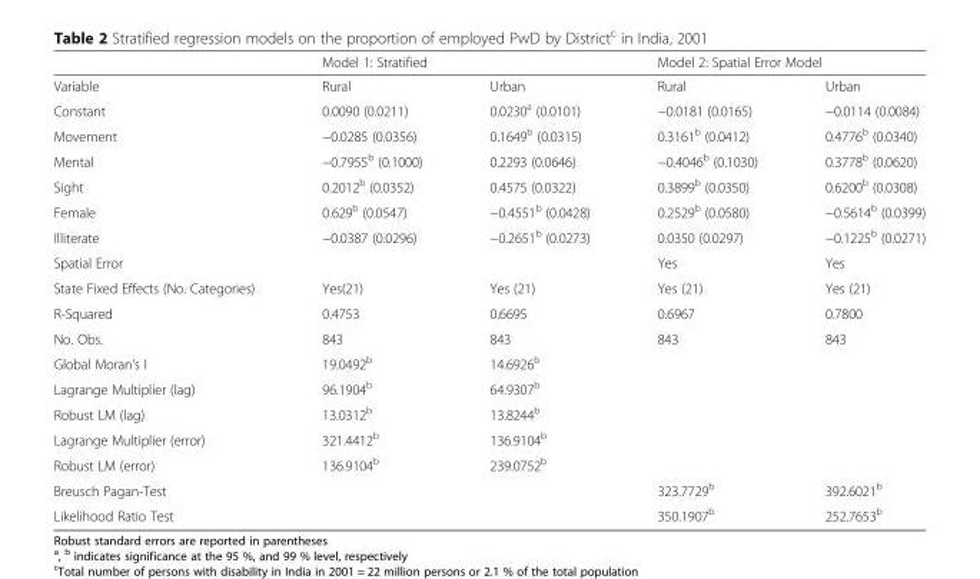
<table><thead><tr><td rowspan="2">Variable</td><td colspan="2">Model 1: Stratified</td><td colspan="2">Model 2: Spatial Error Model</td></tr><tr><td>Rural</td><td>Urban</td><td>Rural</td><td>Urban</td></tr></thead><tbody><tr><td>Constant</td><td>0.0090 (0.0211)</td><td>0.0230<sup>a</sup> (0.0101)</td><td>−0.0181 (0.0165)</td><td>−0.0114 (0.0084)</td></tr><tr><td>Movement</td><td>−0.0285 (0.0356)</td><td>0.1649<sup>b</sup> (0.0315)</td><td>0.3161<sup>b</sup> (0.0412)</td><td>0.4776<sup>b</sup> (0.0340)</td></tr><tr><td>Mental</td><td>−0.7955<sup>b</sup> (0.1000)</td><td>0.2293 (0.0646)</td><td>−0.4046<sup>b</sup> (0.1030)</td><td>0.3778<sup>b</sup> (0.0620)</td></tr><tr><td>Sight</td><td>0.2012<sup>b</sup> (0.0352)</td><td>0.4575 (0.0322)</td><td>0.3899<sup>b</sup> (0.0350)</td><td>0.6200<sup>b</sup> (0.0308)</td></tr><tr><td>Female</td><td>0.629<sup>b</sup> (0.0547)</td><td>−0.4551<sup>b</sup> (0.0428)</td><td>0.2529<sup>b</sup> (0.0580)</td><td>−0.5614<sup>b</sup> (0.0399)</td></tr><tr><td>Illiterate</td><td>−0.0387 (0.0296)</td><td>−0.2651<sup>b</sup> (0.0273)</td><td>0.0350 (0.0297)</td><td>−0.1225<sup>b</sup> (0.0271)</td></tr><tr><td>Spatial Error</td><td></td><td></td><td>Yes</td><td>Yes</td></tr><tr><td>State Fixed Effects (No. Categories)</td><td>Yes(21)</td><td>Yes (21)</td><td>Yes (21)</td><td>Yes (21)</td></tr><tr><td>R-Squared</td><td>0.4753</td><td>0.6695</td><td>0.6967</td><td>0.7800</td></tr><tr><td>No. Obs.</td><td>843</td><td>843</td><td>843</td><td>843</td></tr><tr><td>Global Moran’s I</td><td>19.0492<sup>b</sup></td><td>14.6926<sup>b</sup></td><td></td><td></td></tr><tr><td>Lagrange Multiplier (lag)</td><td>96.1904<sup>b</sup></td><td>64.9307<sup>b</sup></td><td></td><td></td></tr><tr><td>Robust LM (lag)</td><td>13.0312<sup>b</sup></td><td>13.8244<sup>b</sup></td><td></td><td></td></tr><tr><td>Lagrange Multiplier (error)</td><td>321.4412<sup>b</sup></td><td>136.9104<sup>b</sup></td><td></td><td></td></tr><tr><td>Robust LM (error)</td><td>136.9104<sup>b</sup></td><td>239.0752<sup>b</sup></td><td></td><td></td></tr><tr><td>Breusch Pagan-Test</td><td></td><td></td><td>323.7729<sup>b</sup></td><td>392.6021<sup>b</sup></td></tr><tr><td>Likelihood Ratio Test</td><td></td><td></td><td>350.1907<sup>b</sup></td><td>252.7653<sup>b</sup></td></tr></tbody></table>